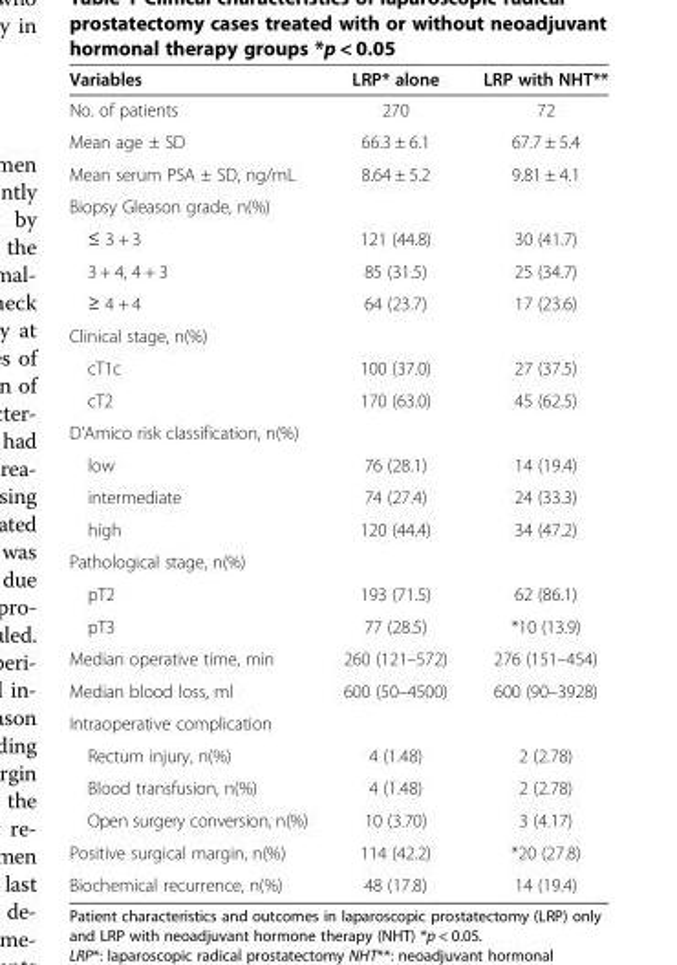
<table><thead><tr><td>Variables</td><td>LRP* alone</td><td>LRP with NHT**</td></tr></thead><tbody><tr><td>No. of patients</td><td>270</td><td>72</td></tr><tr><td>Mean age ± SD</td><td>66.3 ± 6.1</td><td>67.7 ± 5.4</td></tr><tr><td>Mean serum PSA ± SD, ng/mL</td><td>8.64 ± 5.2</td><td>9.81 ± 4.1</td></tr><tr><td colspan="3">Biopsy Gleason grade, n(%)</td></tr><tr><td>≤ 3 + 3</td><td>121 (44.8)</td><td>30 (41.7)</td></tr><tr><td>3 + 4, 4 + 3</td><td>85 (31.5)</td><td>25 (34.7)</td></tr><tr><td>≥ 4 + 4</td><td>64 (23.7)</td><td>17 (23.6)</td></tr><tr><td colspan="3">Clinical stage, n(%)</td></tr><tr><td>cT1c</td><td>100 (37.0)</td><td>27 (37.5)</td></tr><tr><td>cT2</td><td>170 (63.0)</td><td>45 (62.5)</td></tr><tr><td colspan="3">D’Amico risk classification, n(%)</td></tr><tr><td>low</td><td>76 (28.1)</td><td>14 (19.4)</td></tr><tr><td>intermediate</td><td>74 (27.4)</td><td>24 (33.3)</td></tr><tr><td>high</td><td>120 (44.4)</td><td>34 (47.2)</td></tr><tr><td colspan="3">Pathological stage, n(%)</td></tr><tr><td>pT2</td><td>193 (71.5)</td><td>62 (86.1)</td></tr><tr><td>pT3</td><td>77 (28.5)</td><td>*10 (13.9)</td></tr><tr><td>Median operative time, min</td><td>260 (121–572)</td><td>276 (151–454)</td></tr><tr><td>Median blood loss, ml</td><td>600 (50–4500)</td><td>600 (90–3928)</td></tr><tr><td colspan="3">Intraoperative complication</td></tr><tr><td>Rectum injury, n(%)</td><td>4 (1.48)</td><td>2 (2.78)</td></tr><tr><td>Blood transfusion, n(%)</td><td>4 (1.48)</td><td>2 (2.78)</td></tr><tr><td>Open surgery conversion, n(%)</td><td>10 (3.70)</td><td>3 (4.17)</td></tr><tr><td>Positive surgical margin, n(%)</td><td>114 (42.2)</td><td>*20 (27.8)</td></tr><tr><td>Biochemical recurrence, n(%)</td><td>48 (17.8)</td><td>14 (19.4)</td></tr></tbody></table>